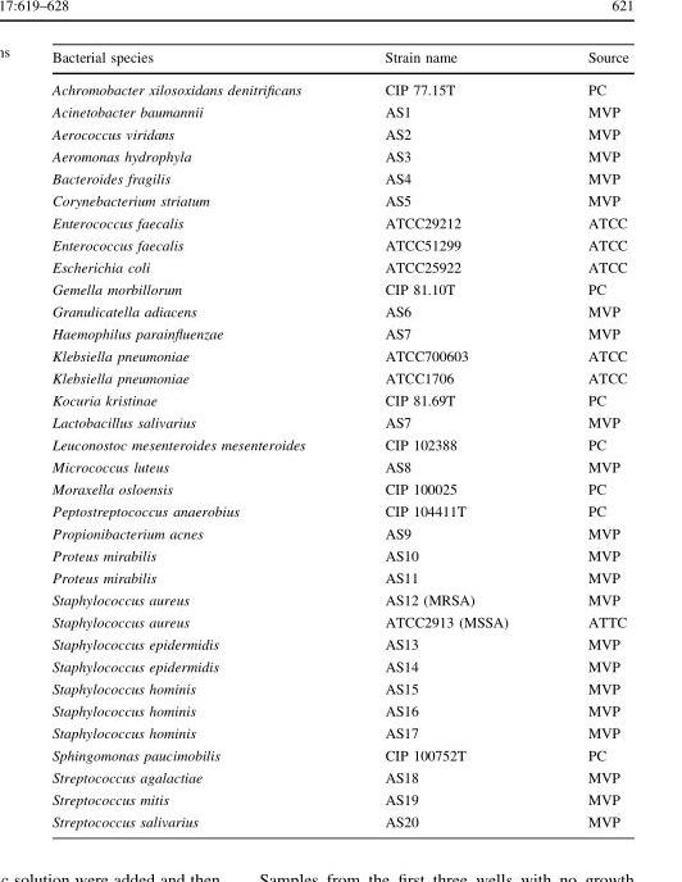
<table><thead><tr><td>Bacterial species</td><td>Strain name</td><td>Source</td></tr></thead><tbody><tr><td>Achromobacter xilosoxidans denitrificans</td><td>CIP 77.15T</td><td>PC</td></tr><tr><td>Acinetobacter baumannii</td><td>AS1</td><td>MVP</td></tr><tr><td>Aerococcus viridans</td><td>AS2</td><td>MVP</td></tr><tr><td>Aeromonas hydrophyla</td><td>AS3</td><td>MVP</td></tr><tr><td>Bacteroides fragilis</td><td>AS4</td><td>MVP</td></tr><tr><td>Corynebacterium striatum</td><td>AS5</td><td>MVP</td></tr><tr><td>Enterococcus faecalis</td><td>ATCC29212</td><td>ATCC</td></tr><tr><td>Enterococcus faecalis</td><td>ATCC51299</td><td>ATCC</td></tr><tr><td>Escherichia coli</td><td>ATCC25922</td><td>ATCC</td></tr><tr><td>Gemella morbillorum</td><td>CIP 81.10T</td><td>PC</td></tr><tr><td>Granulicatella adiacens</td><td>AS6</td><td>MVP</td></tr><tr><td>Haemophilus parainfluenzae</td><td>AS7</td><td>MVP</td></tr><tr><td>Klebsiella pneumoniae</td><td>ATCC700603</td><td>ATCC</td></tr><tr><td>Klebsiella pneumoniae</td><td>ATCC1706</td><td>ATCC</td></tr><tr><td>Kocuria kristinae</td><td>CIP 81.69T</td><td>PC</td></tr><tr><td>Lactobacillus salivarius</td><td>AS7</td><td>MVP</td></tr><tr><td>Leuconostoc mesenteroides mesenteroides</td><td>CIP 102388</td><td>PC</td></tr><tr><td>Micrococcus luteus</td><td>AS8</td><td>MVP</td></tr><tr><td>Moraxella osloensis</td><td>CIP 100025</td><td>PC</td></tr><tr><td>Peptostreptococcus anaerobius</td><td>CIP 104411T</td><td>PC</td></tr><tr><td>Propionibacterium acnes</td><td>AS9</td><td>MVP</td></tr><tr><td>Proteus mirabilis</td><td>AS10</td><td>MVP</td></tr><tr><td>Proteus mirabilis</td><td>AS11</td><td>MVP</td></tr><tr><td>Staphylococcus aureus</td><td>AS12 (MRSA)</td><td>MVP</td></tr><tr><td>Staphylococcus aureus</td><td>ATCC2913 (MSSA)</td><td>ATTC</td></tr><tr><td>Staphylococcus epidermidis</td><td>AS13</td><td>MVP</td></tr><tr><td>Staphylococcus epidermidis</td><td>AS14</td><td>MVP</td></tr><tr><td>Staphylococcus hominis</td><td>AS15</td><td>MVP</td></tr><tr><td>Staphylococcus hominis</td><td>AS16</td><td>MVP</td></tr><tr><td>Staphylococcus hominis</td><td>AS17</td><td>MVP</td></tr><tr><td>Sphingomonas paucimobilis</td><td>CIP 100752T</td><td>PC</td></tr><tr><td>Streptococcus agalactiae</td><td>AS18</td><td>MVP</td></tr><tr><td>Streptococcus mitis</td><td>AS19</td><td>MVP</td></tr><tr><td>Streptococcus salivarius</td><td>AS20</td><td>MVP</td></tr></tbody></table>